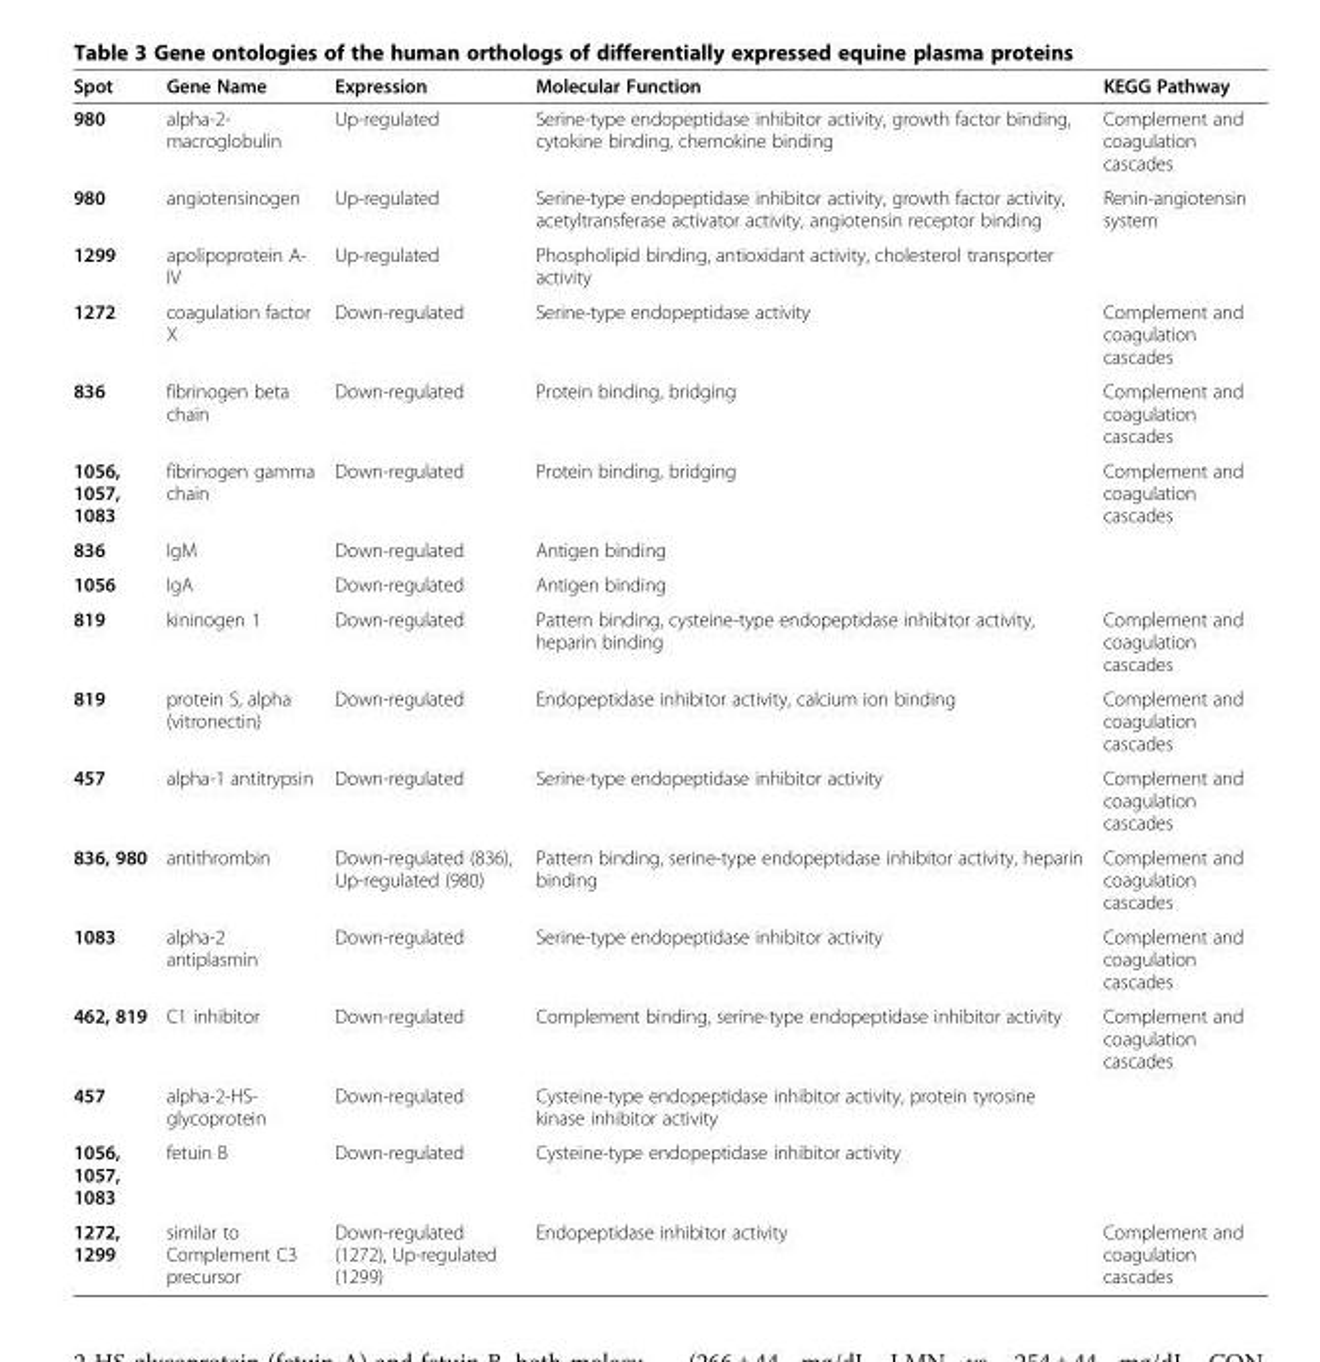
<table><thead><tr><td>Spot</td><td>Gene Name</td><td>Expression</td><td>Molecular Function</td><td>KEGG Pathway</td></tr></thead><tbody><tr><td>980</td><td>alpha-2- macroglobulin</td><td>Up-regulated</td><td>Serine-type endopeptidase inhibitor activity, growth factor binding, cytokine binding, chemokine binding</td><td>Complement and coagulation cascades</td></tr><tr><td>980</td><td>angiotensinogen</td><td>Up-regulated</td><td>Serine-type endopeptidase inhibitor activity, growth factor activity, acetyltransferase activator activity, angiotensin receptor binding</td><td>Renin-angiotensin system</td></tr><tr><td>1299</td><td>apolipoprotein A- IV</td><td>Up-regulated</td><td>Phospholipid binding, antioxidant activity, cholesterol transporter activity</td><td></td></tr><tr><td>1272</td><td>coagulation factor X</td><td>Down-regulated</td><td>Serine-type endopeptidase activity</td><td>Complement and coagulation cascades</td></tr><tr><td>836</td><td>fibrinogen beta chain</td><td>Down-regulated</td><td>Protein binding, bridging</td><td>Complement and coagulation cascades</td></tr><tr><td>1056, 1057, 1083</td><td>fibrinogen gamma chain</td><td>Down-regulated</td><td>Protein binding, bridging</td><td>Complement and coagulation cascades</td></tr><tr><td>836</td><td>IgM</td><td>Down-regulated</td><td>Antigen binding</td><td></td></tr><tr><td>1056</td><td>IgA</td><td>Down-regulated</td><td>Antigen binding</td><td></td></tr><tr><td>819</td><td>kininogen 1</td><td>Down-regulated</td><td>Pattern binding, cysteine-type endopeptidase inhibitor activity, heparin binding</td><td>Complement and coagulation cascades</td></tr><tr><td>819</td><td>protein S, alpha (vitronectin)</td><td>Down-regulated</td><td>Endopeptidase inhibitor activity, calcium ion binding</td><td>Complement and coagulation cascades</td></tr><tr><td>457</td><td>alpha-1 antitrypsin</td><td>Down-regulated</td><td>Serine-type endopeptidase inhibitor activity</td><td>Complement and coagulation cascades</td></tr><tr><td>836, 980</td><td>antithrombin</td><td>Down-regulated (836), Up-regulated (980)</td><td>Pattern binding, serine-type endopeptidase inhibitor activity, heparin binding</td><td>Complement and coagulation cascades</td></tr><tr><td>1083</td><td>alpha-2 antiplasmin</td><td>Down-regulated</td><td>Serine-type endopeptidase inhibitor activity</td><td>Complement and coagulation cascades</td></tr><tr><td>462, 819</td><td>C1 inhibitor</td><td>Down-regulated</td><td>Complement binding, serine-type endopeptidase inhibitor activity</td><td>Complement and coagulation cascades</td></tr><tr><td>457</td><td>alpha-2-HS- glycoprotein</td><td>Down-regulated</td><td>Cysteine-type endopeptidase inhibitor activity, protein tyrosine kinase inhibitor activity</td><td></td></tr><tr><td>1056, 1057, 1083</td><td>fetuin B</td><td>Down-regulated</td><td>Cysteine-type endopeptidase inhibitor activity</td><td></td></tr><tr><td>1272, 1299</td><td>similar to Complement C3 precursor</td><td>Down-regulated (1272), Up-regulated (1299)</td><td>Endopeptidase inhibitor activity</td><td>Complement and coagulation cascades</td></tr></tbody></table>